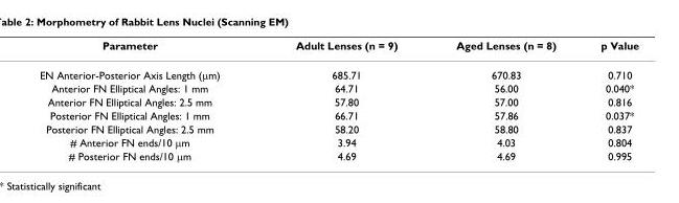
<table><thead><tr><td>Parameter</td><td>Adult Lenses (n = 9)</td><td>Aged Lenses (n = 8)</td><td>p Value</td></tr></thead><tbody><tr><td>EN Anterior-Posterior Axis Length (µm)</td><td>685.71</td><td>670.83</td><td>0.710</td></tr><tr><td>Anterior FN Elliptical Angles: 1 mm</td><td>64.71</td><td>56.00</td><td>0.040*</td></tr><tr><td>Anterior FN Elliptical Angles: 2.5 mm</td><td>57.80</td><td>57.00</td><td>0.816</td></tr><tr><td>Posterior FN Elliptical Angles: 1 mm</td><td>66.71</td><td>57.86</td><td>0.037*</td></tr><tr><td>Posterior FN Elliptical Angles: 2.5 mm</td><td>58.20</td><td>58.80</td><td>0.837</td></tr><tr><td># Anterior FN ends/10 µm</td><td>3.94</td><td>4.03</td><td>0.804</td></tr><tr><td># Posterior FN ends/10 µm</td><td>4.69</td><td>4.69</td><td>0.995</td></tr></tbody></table>